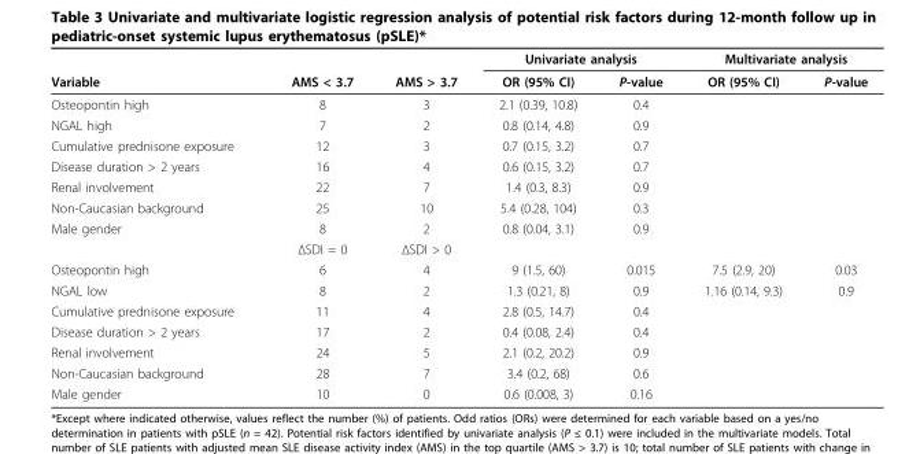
<table><thead><tr><td rowspan="2">Variable</td><td rowspan="2">AMS &lt; 3.7</td><td rowspan="2">AMS &gt; 3.7</td><td colspan="2">Univariate analysis</td><td colspan="2">Multivariate analysis</td></tr><tr><td>OR (95% CI)</td><td>P-value</td><td>OR (95% CI)</td><td>P-value</td></tr></thead><tbody><tr><td>Osteopontin high</td><td>8</td><td>3</td><td>2.1 (0.39, 10.8)</td><td>0.4</td><td></td><td></td></tr><tr><td>NGAL high</td><td>7</td><td>2</td><td>0.8 (0.14, 4.8)</td><td>0.9</td><td></td><td></td></tr><tr><td>Cumulative prednisone exposure</td><td>12</td><td>3</td><td>0.7 (0.15, 3.2)</td><td>0.7</td><td></td><td></td></tr><tr><td>Disease duration &gt; 2 years</td><td>16</td><td>4</td><td>0.6 (0.15, 3.2)</td><td>0.7</td><td></td><td></td></tr><tr><td>Renal involvement</td><td>22</td><td>7</td><td>1.4 (0.3, 8.3)</td><td>0.9</td><td></td><td></td></tr><tr><td>Non-Caucasian background</td><td>25</td><td>10</td><td>5.4 (0.28, 104)</td><td>0.3</td><td></td><td></td></tr><tr><td rowspan="2">Male gender</td><td>8</td><td>2</td><td>0.8 (0.04, 3.1)</td><td>0.9</td><td></td><td></td></tr><tr><td>ΔSDI = 0</td><td>ΔSDI &gt; 0</td><td></td><td></td><td></td><td></td></tr><tr><td>Osteopontin high</td><td>6</td><td>4</td><td>9 (1.5, 60)</td><td>0.015</td><td>7.5 (2.9, 20)</td><td>0.03</td></tr><tr><td>NGAL low</td><td>8</td><td>2</td><td>1.3 (0.21, 8)</td><td>0.9</td><td>1.16 (0.14, 9.3)</td><td>0.9</td></tr><tr><td>Cumulative prednisone exposure</td><td>11</td><td>4</td><td>2.8 (0.5, 14.7)</td><td>0.4</td><td></td><td></td></tr><tr><td>Disease duration &gt; 2 years</td><td>17</td><td>2</td><td>0.4 (0.08, 2.4)</td><td>0.4</td><td></td><td></td></tr><tr><td>Renal involvement</td><td>24</td><td>5</td><td>2.1 (0.2, 20.2)</td><td>0.9</td><td></td><td></td></tr><tr><td>Non-Caucasian background</td><td>28</td><td>7</td><td>3.4 (0.2, 68)</td><td>0.6</td><td></td><td></td></tr><tr><td>Male gender</td><td>10</td><td>0</td><td>0.6 (0.008, 3)</td><td>0.16</td><td></td><td></td></tr></tbody></table>